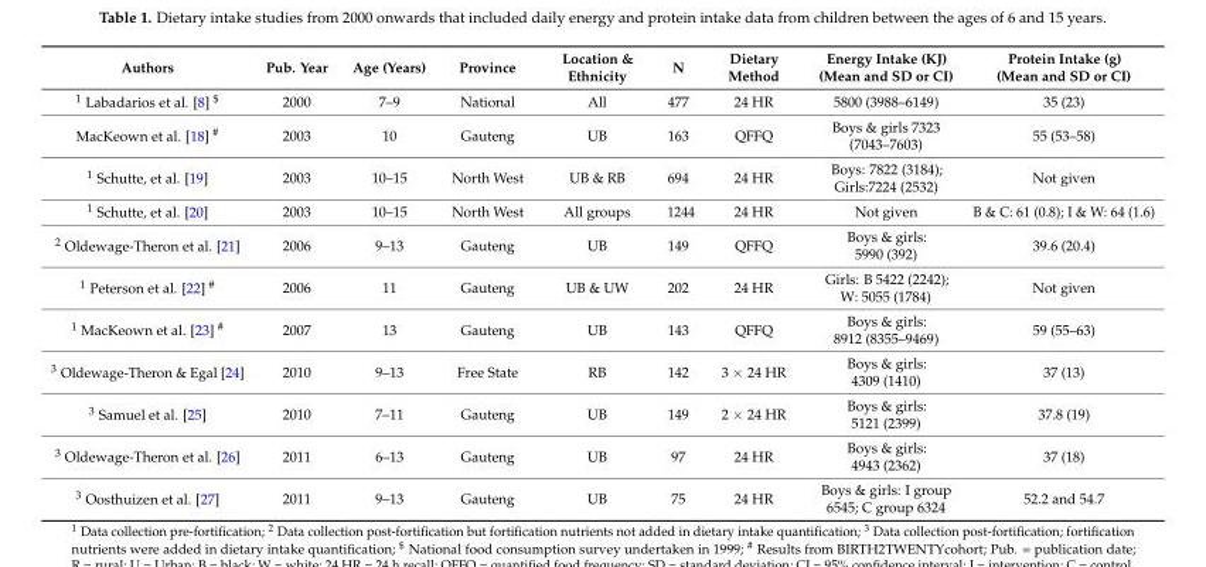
<table><thead><tr><td>Authors</td><td>Pub. Year</td><td>Age (Years)</td><td>Province</td><td>Location &amp; Ethnicity</td><td>N</td><td>Dietary Method</td><td>Energy Intake (KJ) (Mean and SD or CI)</td><td>Protein Intake (g) (Mean and SD or CI)</td></tr></thead><tbody><tr><td><sup>1</sup> Labadarios et al. [8] <sup>$</sup></td><td>2000</td><td>7–9</td><td>National</td><td>All</td><td>477</td><td>24 HR</td><td>5800 (3988–6149)</td><td>35 (23)</td></tr><tr><td>MacKeown et al. [18] <sup>#</sup></td><td>2003</td><td>10</td><td>Gauteng</td><td>UB</td><td>163</td><td>QFFQ</td><td>Boys &amp; girls 7323 (7043–7603)</td><td>55 (53–58)</td></tr><tr><td><sup>1</sup> Schutte, et al. [19]</td><td>2003</td><td>10–15</td><td>North West</td><td>UB &amp; RB</td><td>694</td><td>24 HR</td><td>Boys: 7822 (3184); Girls:7224 (2532)</td><td>Not given</td></tr><tr><td><sup>1</sup> Schutte, et al. [20]</td><td>2003</td><td>10–15</td><td>North West</td><td>All groups</td><td>1244</td><td>24 HR</td><td>Not given</td><td>B &amp; C: 61 (0.8); I &amp; W: 64 (1.6)</td></tr><tr><td><sup>2</sup> Oldewage-Theron et al. [21]</td><td>2006</td><td>9–13</td><td>Gauteng</td><td>UB</td><td>149</td><td>QFFQ</td><td>Boys &amp; girls: 5990 (392)</td><td>39.6 (20.4)</td></tr><tr><td><sup>1</sup> Peterson et al. [22] <sup>#</sup></td><td>2006</td><td>11</td><td>Gauteng</td><td>UB &amp; UW</td><td>202</td><td>24 HR</td><td>Girls: B 5422 (2242); W: 5055 (1784)</td><td>Not given</td></tr><tr><td><sup>1</sup> MacKeown et al. [23] <sup>#</sup></td><td>2007</td><td>13</td><td>Gauteng</td><td>UB</td><td>143</td><td>QFFQ</td><td>Boys &amp; girls: 8912 (8355–9469)</td><td>59 (55–63)</td></tr><tr><td><sup>3</sup> Oldewage-Theron &amp; Egal [24]</td><td>2010</td><td>9–13</td><td>Free State</td><td>RB</td><td>142</td><td>3 × 24 HR</td><td>Boys &amp; girls: 4309 (1410)</td><td>37 (13)</td></tr><tr><td><sup>3</sup> Samuel et al. [25]</td><td>2010</td><td>7–11</td><td>Gauteng</td><td>UB</td><td>149</td><td>2 × 24 HR</td><td>Boys &amp; girls: 5121 (2399)</td><td>37.8 (19)</td></tr><tr><td><sup>3</sup> Oldewage-Theron et al. [26]</td><td>2011</td><td>6–13</td><td>Gauteng</td><td>UB</td><td>97</td><td>24 HR</td><td>Boys &amp; girls: 4943 (2362)</td><td>37 (18)</td></tr><tr><td><sup>3</sup> Oosthuizen et al. [27]</td><td>2011</td><td>9–13</td><td>Gauteng</td><td>UB</td><td>75</td><td>24 HR</td><td>Boys &amp; girls: I group 6545; C group 6324</td><td>52.2 and 54.7</td></tr></tbody></table>